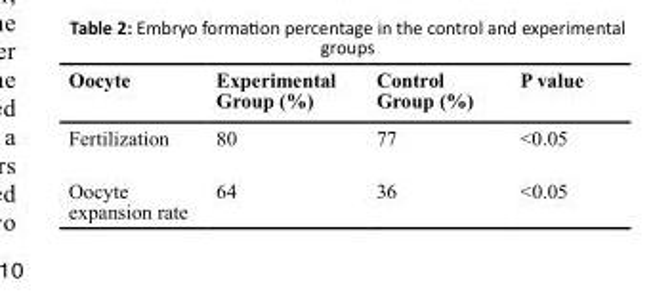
<table><thead><tr><td>Oocyte</td><td>Experimental Group (%)</td><td>Control Group (%)</td><td>P value</td></tr></thead><tbody><tr><td>Fertilization</td><td>80</td><td>77</td><td>&lt;0.05</td></tr><tr><td>Oocyte expansion rate</td><td>64</td><td>36</td><td>&lt;0.05</td></tr></tbody></table>